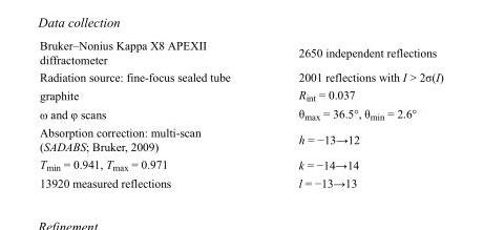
<table><tbody><tr><td>Bruker–Nonius Kappa X8 APEXII diffractometer</td><td>2650 independent reflections</td></tr><tr><td>Radiation source: fine-focus sealed tube</td><td>2001 reflections with I &gt; 2σ(I)</td></tr><tr><td>graphite</td><td>R<sub>int</sub> = 0.037</td></tr><tr><td>ω and φ scans</td><td>θ<sub>max</sub> = 36.5°, θ<sub>min</sub> = 2.6°</td></tr><tr><td>Absorption correction: multi-scan (SADABS; Bruker, 2009)</td><td>h = −13→12</td></tr><tr><td>T<sub>min</sub> = 0.941, T<sub>max</sub> = 0.971</td><td>k = −14→14</td></tr><tr><td>13920 measured reflections</td><td>l = −13→13</td></tr></tbody></table>